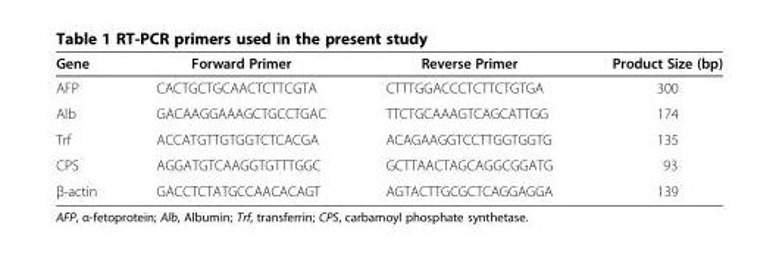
<table><thead><tr><td>Gene</td><td>Forward Primer</td><td>Reverse Primer</td><td>Product Size (bp)</td></tr></thead><tbody><tr><td>AFP</td><td>CACTGCTGCAACTCTTCGTA</td><td>CTTTGGACCCTCTTCTGTGA</td><td>300</td></tr><tr><td>Alb</td><td>GACAAGGAAAGCTGCCTGAC</td><td>TTCTGCAAAGTCAGCATTGG</td><td>174</td></tr><tr><td>Trf</td><td>ACCATGTTGTGGTCTCACGA</td><td>ACAGAAGGTCCTTGGTGGTG</td><td>135</td></tr><tr><td>CPS</td><td>AGGATGTCAAGGTGTTTGGC</td><td>GCTTAACTAGCAGGCGGATG</td><td>93</td></tr><tr><td>β-actin</td><td>GACCTCTATGCCAACACAGT</td><td>AGTACTTGCGCTCAGGAGGA</td><td>139</td></tr></tbody></table>